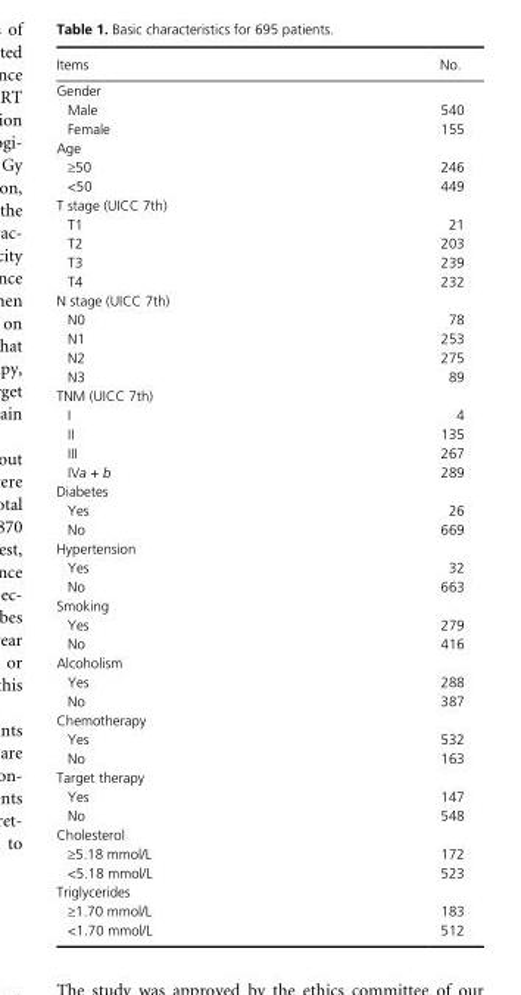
<table><thead><tr><td>Items</td><td>No.</td></tr></thead><tbody><tr><td colspan="2">Gender</td></tr><tr><td>Male</td><td>540</td></tr><tr><td>Female</td><td>155</td></tr><tr><td colspan="2">Age</td></tr><tr><td>≥50</td><td>246</td></tr><tr><td>&lt;50</td><td>449</td></tr><tr><td colspan="2">T stage (UICC 7th)</td></tr><tr><td>T1</td><td>21</td></tr><tr><td>T2</td><td>203</td></tr><tr><td>T3</td><td>239</td></tr><tr><td>T4</td><td>232</td></tr><tr><td colspan="2">N stage (UICC 7th)</td></tr><tr><td>N0</td><td>78</td></tr><tr><td>N1</td><td>253</td></tr><tr><td>N2</td><td>275</td></tr><tr><td>N3</td><td>89</td></tr><tr><td colspan="2">TNM (UICC 7th)</td></tr><tr><td>I</td><td>4</td></tr><tr><td>II</td><td>135</td></tr><tr><td>III</td><td>267</td></tr><tr><td>IVa + b</td><td>289</td></tr><tr><td colspan="2">Diabetes</td></tr><tr><td>Yes</td><td>26</td></tr><tr><td>No</td><td>669</td></tr><tr><td colspan="2">Hypertension</td></tr><tr><td>Yes</td><td>32</td></tr><tr><td>No</td><td>663</td></tr><tr><td colspan="2">Smoking</td></tr><tr><td>Yes</td><td>279</td></tr><tr><td>No</td><td>416</td></tr><tr><td colspan="2">Alcoholism</td></tr><tr><td>Yes</td><td>288</td></tr><tr><td>No</td><td>387</td></tr><tr><td colspan="2">Chemotherapy</td></tr><tr><td>Yes</td><td>532</td></tr><tr><td>No</td><td>163</td></tr><tr><td colspan="2">Target therapy</td></tr><tr><td>Yes</td><td>147</td></tr><tr><td>No</td><td>548</td></tr><tr><td colspan="2">Cholesterol</td></tr><tr><td>≥5.18 mmol/L</td><td>172</td></tr><tr><td>&lt;5.18 mmol/L</td><td>523</td></tr><tr><td colspan="2">Triglycerides</td></tr><tr><td>≥1.70 mmol/L</td><td>183</td></tr><tr><td>&lt;1.70 mmol/L</td><td>512</td></tr></tbody></table>